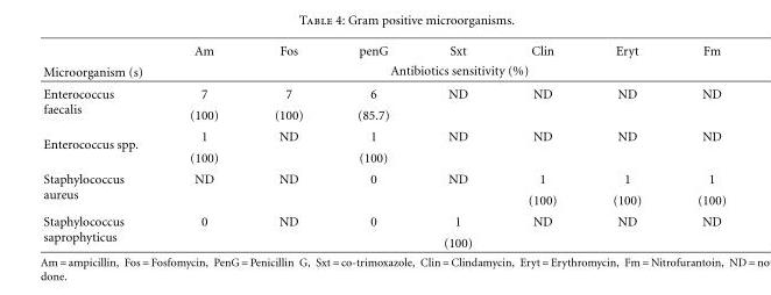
<table><thead><tr><td rowspan="2">Microorganism (s)</td><td>Am</td><td>Fos</td><td>penG</td><td>Sxt</td><td>Clin</td><td>Eryt</td><td>Fm</td></tr><tr><td colspan="7">Antibiotics sensitivity (%)</td></tr></thead><tbody><tr><td rowspan="2">Enterococcus faecalis</td><td>7</td><td>7</td><td>6</td><td>ND</td><td>ND</td><td>ND</td><td>ND</td></tr><tr><td>(100)</td><td>(100)</td><td>(85.7)</td><td></td><td></td><td></td><td></td></tr><tr><td rowspan="2">Enterococcus spp.</td><td>1</td><td>ND</td><td>1</td><td>ND</td><td>ND</td><td>ND</td><td>ND</td></tr><tr><td>(100)</td><td></td><td>(100)</td><td></td><td></td><td></td><td></td></tr><tr><td rowspan="2">Staphylococcus aureus</td><td>ND</td><td>ND</td><td>0</td><td>ND</td><td>1</td><td>1</td><td>1</td></tr><tr><td></td><td></td><td></td><td></td><td>(100)</td><td>(100)</td><td>(100)</td></tr><tr><td rowspan="2">Staphylococcus saprophyticus</td><td>0</td><td>ND</td><td>0</td><td>1</td><td>ND</td><td>ND</td><td>ND</td></tr><tr><td></td><td></td><td></td><td>(100)</td><td></td><td></td><td></td></tr></tbody></table>